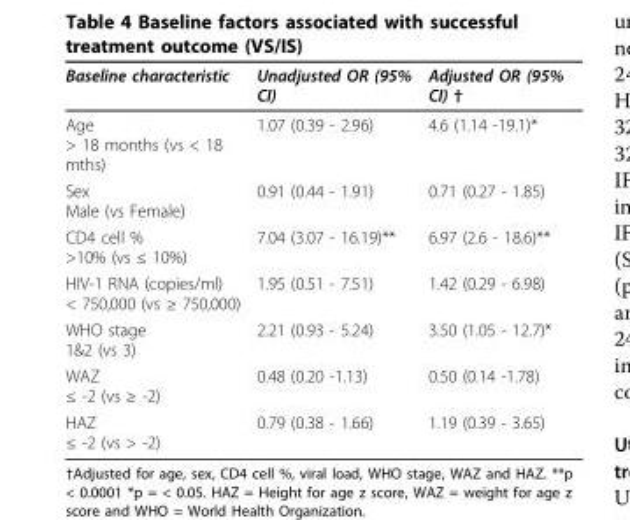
<table><thead><tr><td>Baseline characteristic</td><td>Unadjusted OR (95% CI)</td><td>Adjusted OR (95% CI) †</td></tr></thead><tbody><tr><td>Age &gt; 18 months (vs &lt; 18 mths)</td><td>1.07 (0.39 - 2.96)</td><td>4.6 (1.14 -19.1)*</td></tr><tr><td>Sex Male (vs Female)</td><td>0.91 (0.44 - 1.91)</td><td>0.71 (0.27 - 1.85)</td></tr><tr><td>CD4 cell % &gt;10% (vs ≤ 10%)</td><td>7.04 (3.07 - 16.19)**</td><td>6.97 (2.6 - 18.6)**</td></tr><tr><td>HIV-1 RNA (copies/ml) &lt; 750,000 (vs ≥ 750,000)</td><td>1.95 (0.51 - 7.51)</td><td>1.42 (0.29 - 6.98)</td></tr><tr><td>WHO stage 1&amp;2 (vs 3)</td><td>2.21 (0.93 - 5.24)</td><td>3.50 (1.05 - 12.7)*</td></tr><tr><td>WAZ ≤ -2 (vs ≥ -2)</td><td>0.48 (0.20 -1.13)</td><td>0.50 (0.14 -1.78)</td></tr><tr><td>HAZ ≤ -2 (vs &gt; -2)</td><td>0.79 (0.38 - 1.66)</td><td>1.19 (0.39 - 3.65)</td></tr></tbody></table>